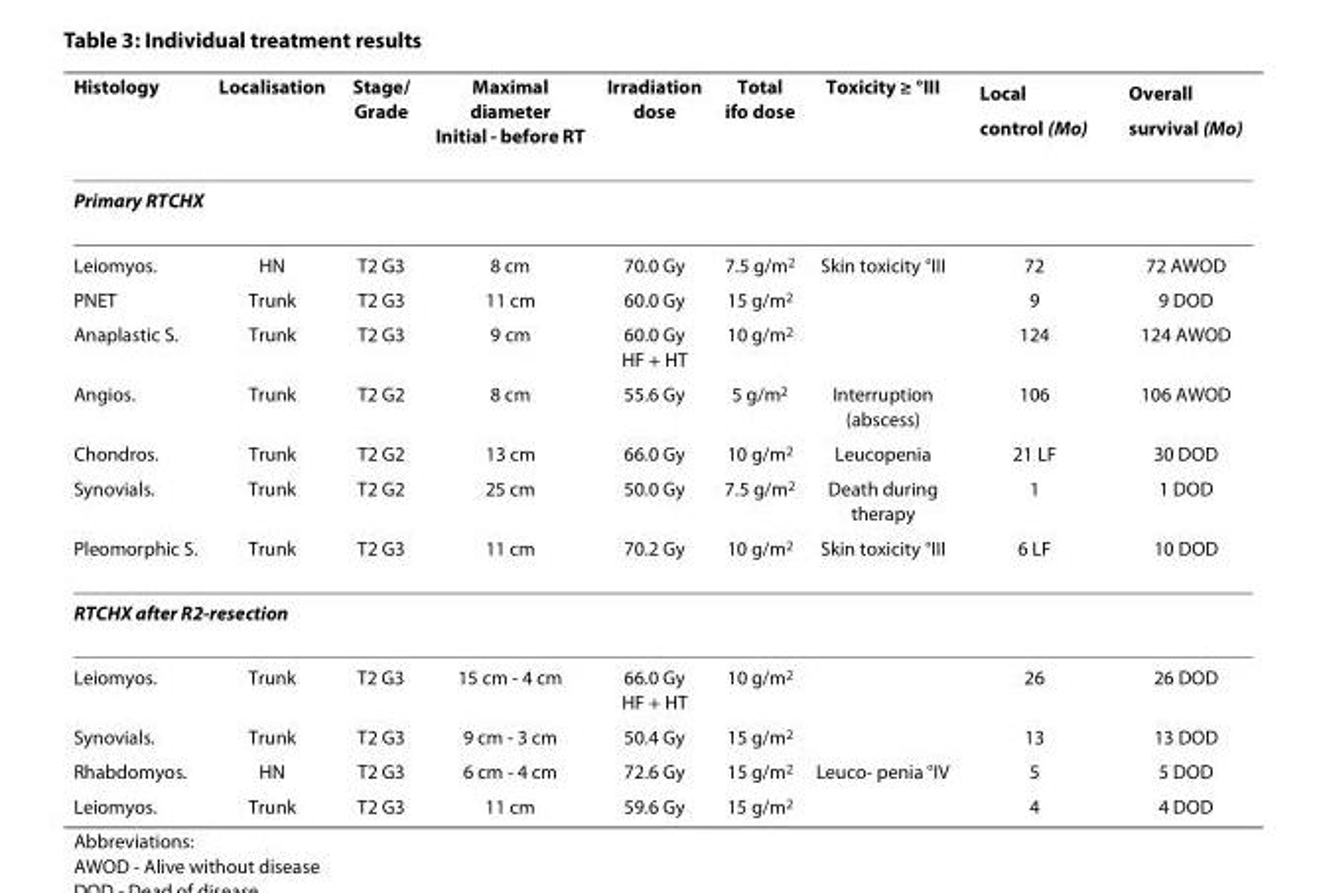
<table><thead><tr><td>Histology</td><td>Localisation</td><td>Stage/ Grade</td><td>Maximal diameter Initial - before RT</td><td>Irradiation dose</td><td>Total ifo dose</td><td>Toxicity ≥ °III</td><td>Local control (Mo)</td><td>Overall survival (Mo)</td></tr></thead><tbody><tr><td colspan="9">Primary RTCHX</td></tr><tr><td>Leiomyos.</td><td>HN</td><td>T2 G3</td><td>8 cm</td><td>70.0 Gy</td><td>7.5 g/m<sup>2</sup></td><td>Skin toxicity °III</td><td>72</td><td>72 AWOD</td></tr><tr><td>PNET</td><td>Trunk</td><td>T2 G3</td><td>11 cm</td><td>60.0 Gy</td><td>15 g/m<sup>2</sup></td><td></td><td>9</td><td>9 DOD</td></tr><tr><td>Anaplastic S.</td><td>Trunk</td><td>T2 G3</td><td>9 cm</td><td>60.0 Gy HF + HT</td><td>10 g/m<sup>2</sup></td><td></td><td>124</td><td>124 AWOD</td></tr><tr><td>Angios.</td><td>Trunk</td><td>T2 G2</td><td>8 cm</td><td>55.6 Gy</td><td>5 g/m<sup>2</sup></td><td>Interruption (abscess)</td><td>106</td><td>106 AWOD</td></tr><tr><td>Chondros.</td><td>Trunk</td><td>T2 G2</td><td>13 cm</td><td>66.0 Gy</td><td>10 g/m<sup>2</sup></td><td>Leucopenia</td><td>21 LF</td><td>30 DOD</td></tr><tr><td>Synovials.</td><td>Trunk</td><td>T2 G2</td><td>25 cm</td><td>50.0 Gy</td><td>7.5 g/m<sup>2</sup></td><td>Death during therapy</td><td>1</td><td>1 DOD</td></tr><tr><td>Pleomorphic S.</td><td>Trunk</td><td>T2 G3</td><td>11 cm</td><td>70.2 Gy</td><td>10 g/m<sup>2</sup></td><td>Skin toxicity °III</td><td>6 LF</td><td>10 DOD</td></tr><tr><td colspan="9">RTCHX after R2-resection</td></tr><tr><td>Leiomyos.</td><td>Trunk</td><td>T2 G3</td><td>15 cm - 4 cm</td><td>66.0 Gy HF + HT</td><td>10 g/m<sup>2</sup></td><td></td><td>26</td><td>26 DOD</td></tr><tr><td>Synovials.</td><td>Trunk</td><td>T2 G3</td><td>9 cm - 3 cm</td><td>50.4 Gy</td><td>15 g/m<sup>2</sup></td><td></td><td>13</td><td>13 DOD</td></tr><tr><td>Rhabdomyos.</td><td>HN</td><td>T2 G3</td><td>6 cm - 4 cm</td><td>72.6 Gy</td><td>15 g/m<sup>2</sup></td><td>Leuco- penia °IV</td><td>5</td><td>5 DOD</td></tr><tr><td>Leiomyos.</td><td>Trunk</td><td>T2 G3</td><td>11 cm</td><td>59.6 Gy</td><td>15 g/m<sup>2</sup></td><td></td><td>4</td><td>4 DOD</td></tr></tbody></table>